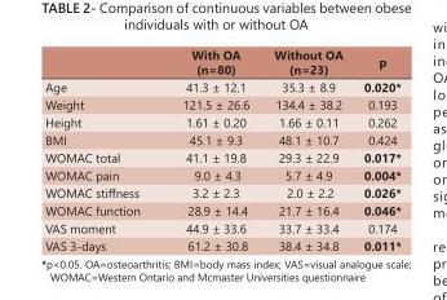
<table><thead><tr><td></td><td>With OA (n=80)</td><td>Without OA (n=23)</td><td>p</td></tr></thead><tbody><tr><td>Age</td><td>41.3 ± 12.1</td><td>35.3 ± 8.9</td><td>0.020*</td></tr><tr><td>Weight</td><td>121.5 ± 26.6</td><td>134.4 ± 38.2</td><td>0.193</td></tr><tr><td>Height</td><td>1.61 ± 0.20</td><td>1.66 ± 0.11</td><td>0.262</td></tr><tr><td>BMI</td><td>45.1 ± 9.3</td><td>48.1 ± 10.7</td><td>0.424</td></tr><tr><td>WOMAC total</td><td>41.1 ± 19.8</td><td>29.3 ± 22.9</td><td>0.017*</td></tr><tr><td>WOMAC pain</td><td>9.0 ± 4.3</td><td>5.7 ± 4.9</td><td>0.004*</td></tr><tr><td>WOMAC stiffness</td><td>3.2 ± 2.3</td><td>2.0 ± 2.2</td><td>0.026*</td></tr><tr><td>WOMAC function</td><td>28.9 ± 14.4</td><td>21.7 ± 16.4</td><td>0.046*</td></tr><tr><td>VAS moment</td><td>44.9 ± 33.6</td><td>33.7 ± 33.4</td><td>0.174</td></tr><tr><td>VAS 3-days</td><td>61.2 ± 30.8</td><td>38.4 ± 34.8</td><td>0.011*</td></tr></tbody></table>